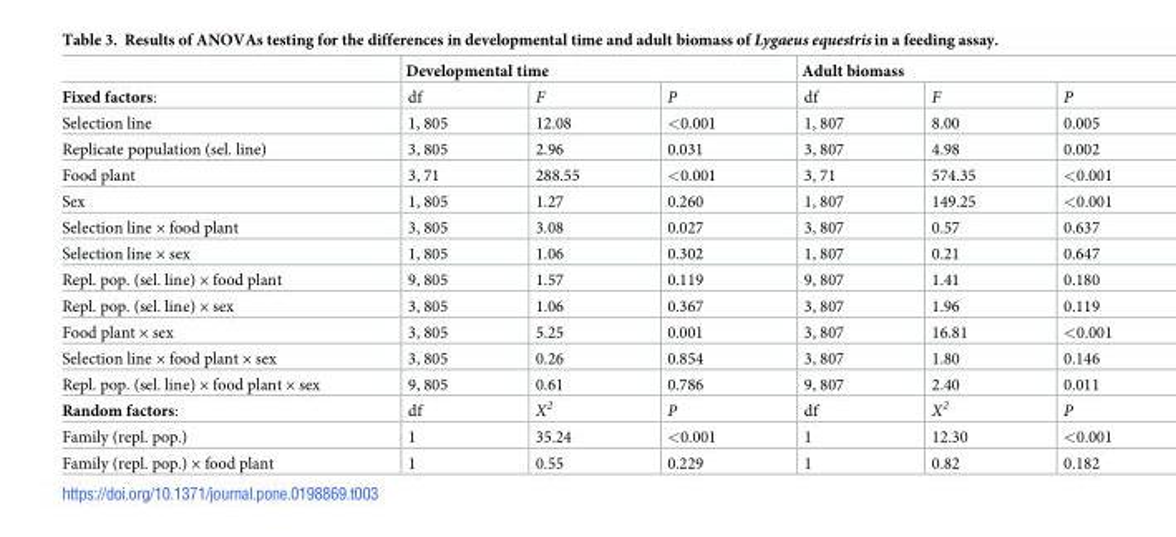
<table><thead><tr><td rowspan="2">Fixed factors:</td><td colspan="3">Developmental time</td><td colspan="3">Adult biomass</td></tr><tr><td>df</td><td>F</td><td>P</td><td>df</td><td>F</td><td>P</td></tr></thead><tbody><tr><td>Selection line</td><td>1, 805</td><td>12.08</td><td>&lt;0.001</td><td>1, 807</td><td>8.00</td><td>0.005</td></tr><tr><td>Replicate population (sel. line)</td><td>3, 805</td><td>2.96</td><td>0.031</td><td>3, 807</td><td>4.98</td><td>0.002</td></tr><tr><td>Food plant</td><td>3, 71</td><td>288.55</td><td>&lt;0.001</td><td>3, 71</td><td>574.35</td><td>&lt;0.001</td></tr><tr><td>Sex</td><td>1, 805</td><td>1.27</td><td>0.260</td><td>1, 807</td><td>149.25</td><td>&lt;0.001</td></tr><tr><td>Selection line × food plant</td><td>3, 805</td><td>3.08</td><td>0.027</td><td>3, 807</td><td>0.57</td><td>0.637</td></tr><tr><td>Selection line × sex</td><td>1, 805</td><td>1.06</td><td>0.302</td><td>1, 807</td><td>0.21</td><td>0.647</td></tr><tr><td>Repl. pop. (sel. line) × food plant</td><td>9, 805</td><td>1.57</td><td>0.119</td><td>9, 807</td><td>1.41</td><td>0.180</td></tr><tr><td>Repl. pop. (sel. line) × sex</td><td>3, 805</td><td>1.06</td><td>0.367</td><td>3, 807</td><td>1.96</td><td>0.119</td></tr><tr><td>Food plant × sex</td><td>3, 805</td><td>5.25</td><td>0.001</td><td>3, 807</td><td>16.81</td><td>&lt;0.001</td></tr><tr><td>Selection line × food plant × sex</td><td>3, 805</td><td>0.26</td><td>0.854</td><td>3, 807</td><td>1.80</td><td>0.146</td></tr><tr><td>Repl. pop. (sel. line) × food plant × sex</td><td>9, 805</td><td>0.61</td><td>0.786</td><td>9, 807</td><td>2.40</td><td>0.011</td></tr><tr><td>Random factors:</td><td>df</td><td>X<sup>2</sup></td><td>P</td><td>df</td><td>X<sup>2</sup></td><td>P</td></tr><tr><td>Family (repl. pop.)</td><td>1</td><td>35.24</td><td>&lt;0.001</td><td>1</td><td>12.30</td><td>&lt;0.001</td></tr><tr><td>Family (repl. pop.) × food plant</td><td>1</td><td>0.55</td><td>0.229</td><td>1</td><td>0.82</td><td>0.182</td></tr></tbody></table>